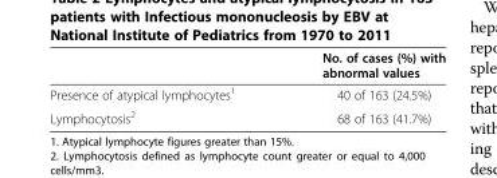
<table><thead><tr><td></td><td>No. of cases (%) with abnormal values</td></tr></thead><tbody><tr><td>Presence of atypical lymphocytes<sup>1</sup></td><td>40 of 163 (24.5%)</td></tr><tr><td>Lymphocytosis<sup>2</sup></td><td>68 of 163 (41.7%)</td></tr></tbody></table>